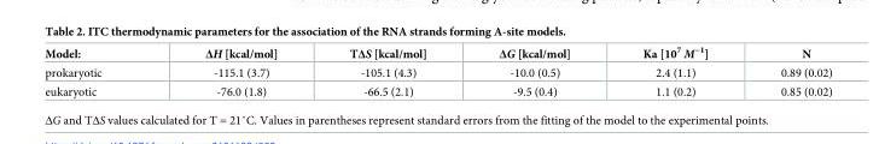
<table><thead><tr><td>Model:</td><td>ΔH [kcal/mol]</td><td>TΔS [kcal/mol]</td><td>ΔG [kcal/mol]</td><td>Ka [10<sup>7</sup> M<sup>−1</sup>]</td><td>N</td></tr></thead><tbody><tr><td>prokaryotic</td><td>-115.1 (3.7)</td><td>-105.1 (4.3)</td><td>-10.0 (0.5)</td><td>2.4 (1.1)</td><td>0.89 (0.02)</td></tr><tr><td>eukaryotic</td><td>-76.0 (1.8)</td><td>-66.5 (2.1)</td><td>-9.5 (0.4)</td><td>1.1 (0.2)</td><td>0.85 (0.02)</td></tr></tbody></table>